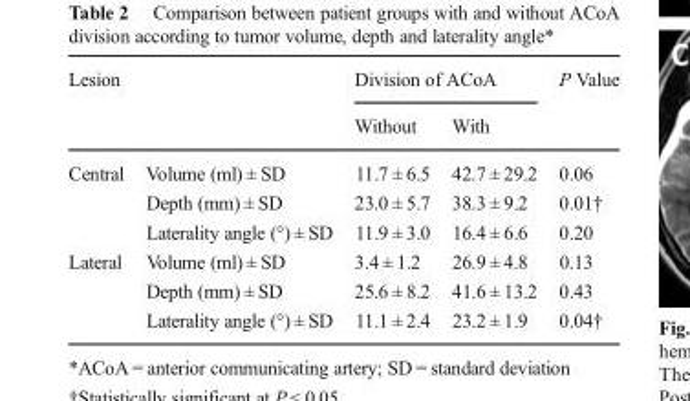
<table><thead><tr><td rowspan="2">Lesion</td><td rowspan="2"></td><td colspan="2">Division of ACoA</td><td rowspan="2">P Value</td></tr><tr><td>Without</td><td>With</td></tr></thead><tbody><tr><td rowspan="3">Central</td><td>Volume (ml) ± SD</td><td>11.7 ± 6.5</td><td>42.7 ± 29.2</td><td>0.06</td></tr><tr><td>Depth (mm) ± SD</td><td>23.0 ± 5.7</td><td>38.3 ± 9.2</td><td>0.01†</td></tr><tr><td>Laterality angle (°) ± SD</td><td>11.9 ± 3.0</td><td>16.4 ± 6.6</td><td>0.20</td></tr><tr><td rowspan="3">Lateral</td><td>Volume (ml) ± SD</td><td>3.4 ± 1.2</td><td>26.9 ± 4.8</td><td>0.13</td></tr><tr><td>Depth (mm) ± SD</td><td>25.6 ± 8.2</td><td>41.6 ± 13.2</td><td>0.43</td></tr><tr><td>Laterality angle (°) ± SD</td><td>11.1 ± 2.4</td><td>23.2 ± 1.9</td><td>0.04†</td></tr></tbody></table>